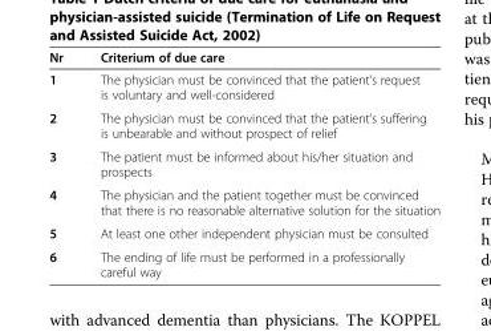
<table><thead><tr><td>Nr</td><td>Criterium of due care</td></tr></thead><tbody><tr><td>1</td><td>The physician must be convinced that the patient’s request is voluntary and well-considered</td></tr><tr><td>2</td><td>The physician must be convinced that the patient’s suffering is unbearable and without prospect of relief</td></tr><tr><td>3</td><td>The patient must be informed about his/her situation and prospects</td></tr><tr><td>4</td><td>The physician and the patient together must be convinced that there is no reasonable alternative solution for the situation</td></tr><tr><td>5</td><td>At least one other independent physician must be consulted</td></tr><tr><td>6</td><td>The ending of life must be performed in a professionally careful way</td></tr></tbody></table>